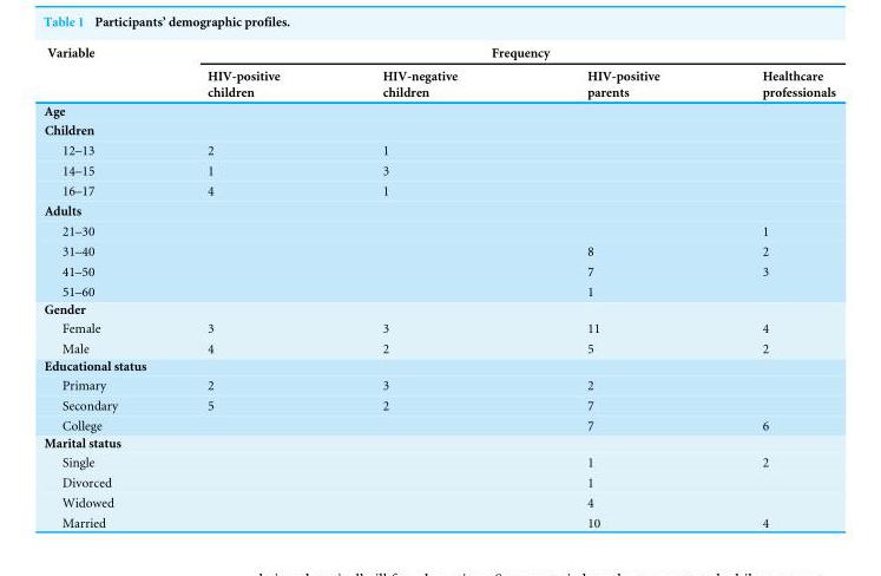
<table><thead><tr><td rowspan="2">Variable</td><td colspan="4">Frequency</td></tr><tr><td>HIV-positive children</td><td>HIV-negative children</td><td>HIV-positive parents</td><td>Healthcare professionals</td></tr></thead><tbody><tr><td colspan="5">Age</td></tr><tr><td colspan="5">Children</td></tr><tr><td>12–13</td><td>2</td><td>1</td><td></td><td></td></tr><tr><td>14–15</td><td>1</td><td>3</td><td></td><td></td></tr><tr><td>16–17</td><td>4</td><td>1</td><td></td><td></td></tr><tr><td colspan="5">Adults</td></tr><tr><td>21–30</td><td></td><td></td><td></td><td>1</td></tr><tr><td>31–40</td><td></td><td></td><td>8</td><td>2</td></tr><tr><td>41–50</td><td></td><td></td><td>7</td><td>3</td></tr><tr><td>51–60</td><td></td><td></td><td>1</td><td></td></tr><tr><td colspan="5">Gender</td></tr><tr><td>Female</td><td>3</td><td>3</td><td>11</td><td>4</td></tr><tr><td>Male</td><td>4</td><td>2</td><td>5</td><td>2</td></tr><tr><td colspan="5">Educational status</td></tr><tr><td>Primary</td><td>2</td><td>3</td><td>2</td><td></td></tr><tr><td>Secondary</td><td>5</td><td>2</td><td>7</td><td></td></tr><tr><td>College</td><td></td><td></td><td>7</td><td>6</td></tr><tr><td colspan="5">Marital status</td></tr><tr><td>Single</td><td></td><td></td><td>1</td><td>2</td></tr><tr><td>Divorced</td><td></td><td></td><td>1</td><td></td></tr><tr><td>Widowed</td><td></td><td></td><td>4</td><td></td></tr><tr><td>Married</td><td></td><td></td><td>10</td><td>4</td></tr></tbody></table>